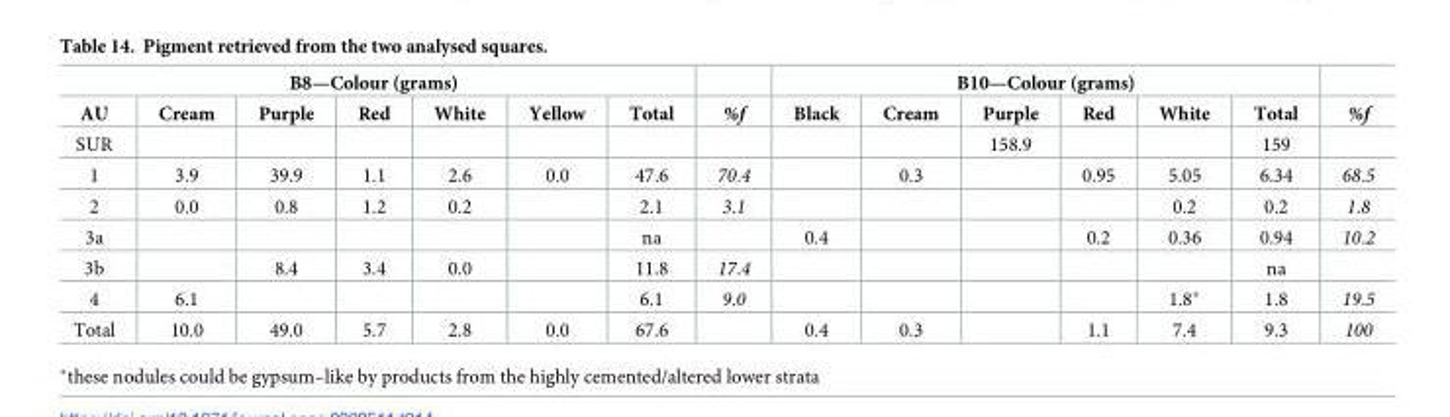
<table><thead><tr><td colspan="7">B8—Colour (grams)</td><td rowspan="2">%f</td><td colspan="6">B10—Colour (grams)</td><td rowspan="2">%f</td></tr><tr><td>AU</td><td>Cream</td><td>Purple</td><td>Red</td><td>White</td><td>Yellow</td><td>Total</td><td>Black</td><td>Cream</td><td>Purple</td><td>Red</td><td>White</td><td>Total</td></tr></thead><tbody><tr><td>SUR</td><td></td><td></td><td></td><td></td><td></td><td></td><td></td><td></td><td></td><td>158.9</td><td></td><td></td><td>159</td><td></td></tr><tr><td>1</td><td>3.9</td><td>39.9</td><td>1.1</td><td>2.6</td><td>0.0</td><td>47.6</td><td>70.4</td><td></td><td>0.3</td><td></td><td>0.95</td><td>5.05</td><td>6.34</td><td>68.5</td></tr><tr><td>2</td><td>0.0</td><td>0.8</td><td>1.2</td><td>0.2</td><td></td><td>2.1</td><td>3.1</td><td></td><td></td><td></td><td></td><td>0.2</td><td>0.2</td><td>1.8</td></tr><tr><td>3a</td><td></td><td></td><td></td><td></td><td></td><td>na</td><td></td><td>0.4</td><td></td><td></td><td>0.2</td><td>0.36</td><td>0.94</td><td>10.2</td></tr><tr><td>3b</td><td></td><td>8.4</td><td>3.4</td><td>0.0</td><td></td><td>11.8</td><td>17.4</td><td></td><td></td><td></td><td></td><td></td><td>na</td><td></td></tr><tr><td>4</td><td>6.1</td><td></td><td></td><td></td><td></td><td>6.1</td><td>9.0</td><td></td><td></td><td></td><td></td><td>1.8*</td><td>1.8</td><td>19.5</td></tr><tr><td>Total</td><td>10.0</td><td>49.0</td><td>5.7</td><td>2.8</td><td>0.0</td><td>67.6</td><td></td><td>0.4</td><td>0.3</td><td></td><td>1.1</td><td>7.4</td><td>9.3</td><td>100</td></tr></tbody></table>